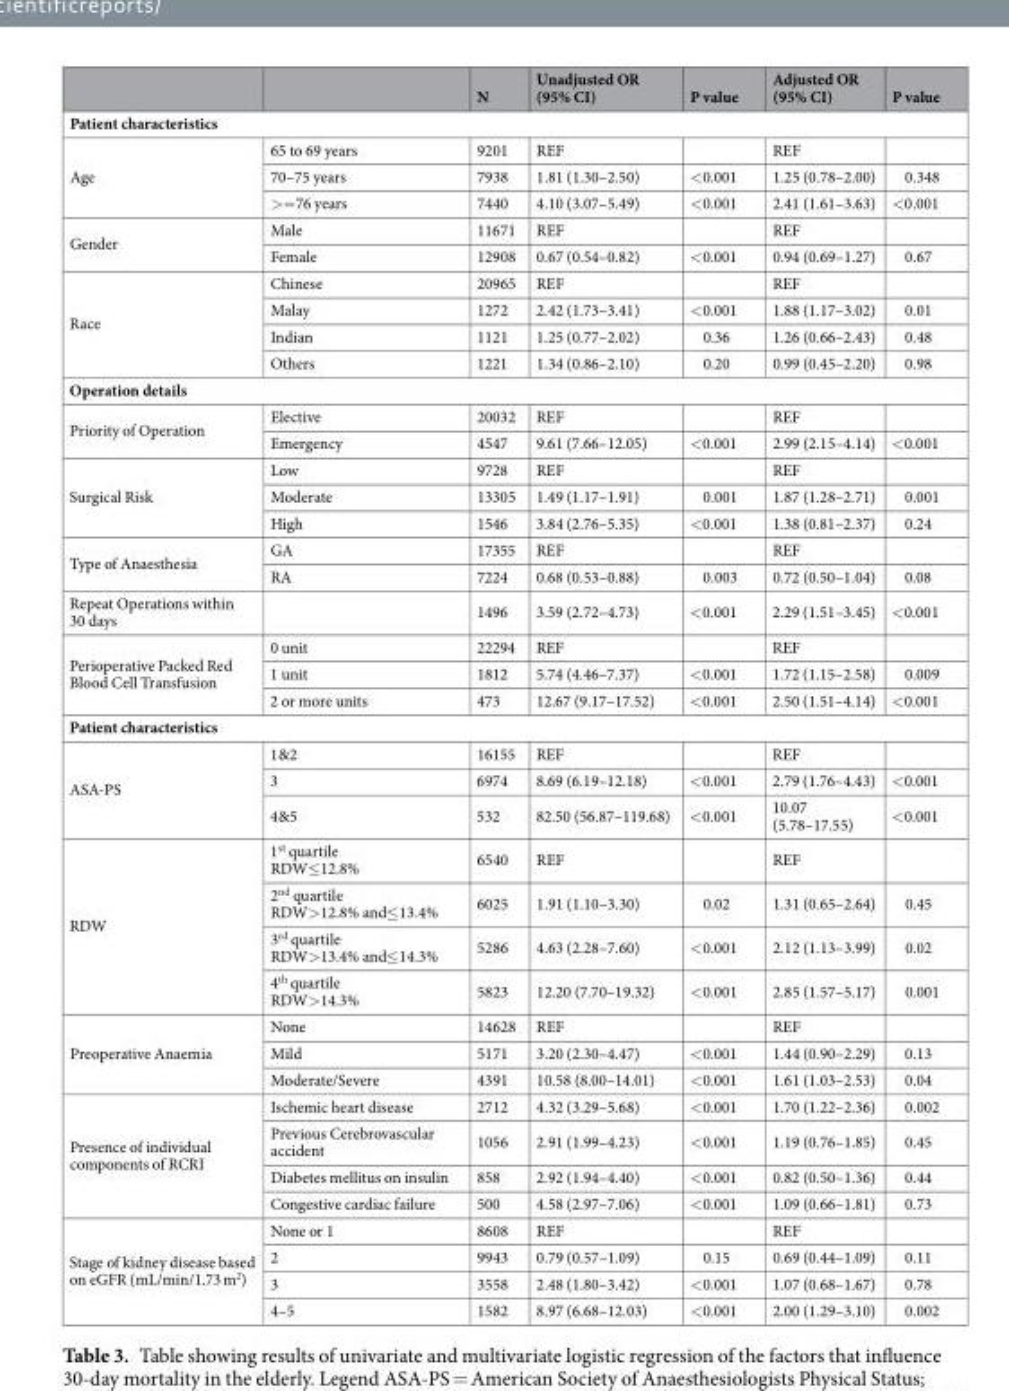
<table><thead><tr><td></td><td></td><td>N</td><td>Unadjusted OR (95% CI)</td><td>P value</td><td>Adjusted OR (95% CI)</td><td>P value</td></tr></thead><tbody><tr><td colspan="7">Patient characteristics</td></tr><tr><td rowspan="3">Age</td><td>65 to 69 years</td><td>9201</td><td>REF</td><td></td><td>REF</td><td></td></tr><tr><td>70–75 years</td><td>7938</td><td>1.81 (1.30–2.50)</td><td>&lt;0.001</td><td>1.25 (0.78–2.00)</td><td>0.348</td></tr><tr><td>&gt;=76 years</td><td>7440</td><td>4.10 (3.07–5.49)</td><td>&lt;0.001</td><td>2.41 (1.61–3.63)</td><td>&lt;0.001</td></tr><tr><td rowspan="2">Gender</td><td>Male</td><td>11671</td><td>REF</td><td></td><td>REF</td><td></td></tr><tr><td>Female</td><td>12908</td><td>0.67 (0.54–0.82)</td><td>&lt;0.001</td><td>0.94 (0.69–1.27)</td><td>0.67</td></tr><tr><td rowspan="4">Race</td><td>Chinese</td><td>20965</td><td>REF</td><td></td><td>REF</td><td></td></tr><tr><td>Malay</td><td>1272</td><td>2.42 (1.73–3.41)</td><td>&lt;0.001</td><td>1.88 (1.17–3.02)</td><td>0.01</td></tr><tr><td>Indian</td><td>1121</td><td>1.25 (0.77–2.02)</td><td>0.36</td><td>1.26 (0.66–2.43)</td><td>0.48</td></tr><tr><td>Others</td><td>1221</td><td>1.34 (0.86–2.10)</td><td>0.20</td><td>0.99 (0.45–2.20)</td><td>0.98</td></tr><tr><td colspan="7">Operation details</td></tr><tr><td rowspan="2">Priority of Operation</td><td>Elective</td><td>20032</td><td>REF</td><td></td><td>REF</td><td></td></tr><tr><td>Emergency</td><td>4547</td><td>9.61 (7.66–12.05)</td><td>&lt;0.001</td><td>2.99 (2.15–4.14)</td><td>&lt;0.001</td></tr><tr><td rowspan="3">Surgical Risk</td><td>Low</td><td>9728</td><td>REF</td><td></td><td>REF</td><td></td></tr><tr><td>Moderate</td><td>13305</td><td>1.49 (1.17–1.91)</td><td>0.001</td><td>1.87 (1.28–2.71)</td><td>0.001</td></tr><tr><td>High</td><td>1546</td><td>3.84 (2.76–5.35)</td><td>&lt;0.001</td><td>1.38 (0.81–2.37)</td><td>0.24</td></tr><tr><td rowspan="2">Type of Anaesthesia</td><td>GA</td><td>17355</td><td>REF</td><td></td><td>REF</td><td></td></tr><tr><td>RA</td><td>7224</td><td>0.68 (0.53–0.88)</td><td>0.003</td><td>0.72 (0.50–1.04)</td><td>0.08</td></tr><tr><td>Repeat Operations within 30 days</td><td></td><td>1496</td><td>3.59 (2.72–4.73)</td><td>&lt;0.001</td><td>2.29 (1.51–3.45)</td><td>&lt;0.001</td></tr><tr><td rowspan="3">Perioperative Packed Red Blood Cell Transfusion</td><td>0 unit</td><td>22294</td><td>REF</td><td></td><td>REF</td><td></td></tr><tr><td>1 unit</td><td>1812</td><td>5.74 (4.46–7.37)</td><td>&lt;0.001</td><td>1.72 (1.15–2.58)</td><td>0.009</td></tr><tr><td>2 or more units</td><td>473</td><td>12.67 (9.17–17.52)</td><td>&lt;0.001</td><td>2.50 (1.51–4.14)</td><td>&lt;0.001</td></tr><tr><td colspan="7">Patient characteristics</td></tr><tr><td rowspan="3">ASA-PS</td><td>1&amp;2</td><td>16155</td><td>REF</td><td></td><td>REF</td><td></td></tr><tr><td>3</td><td>6974</td><td>8.69 (6.19–12.18)</td><td>&lt;0.001</td><td>2.79 (1.76–4.43)</td><td>&lt;0.001</td></tr><tr><td>4&amp;5</td><td>532</td><td>82.50 (56.87–119.68)</td><td>&lt;0.001</td><td>10.07 (5.78–17.55)</td><td>&lt;0.001</td></tr><tr><td rowspan="4">RDW</td><td>1<sup>st</sup> quartile RDW≤12.8%</td><td>6540</td><td>REF</td><td></td><td>REF</td><td></td></tr><tr><td>2<sup>nd</sup> quartile RDW&gt;12.8% and≤13.4%</td><td>6025</td><td>1.91 (1.10–3.30)</td><td>0.02</td><td>1.31 (0.65–2.64)</td><td>0.45</td></tr><tr><td>3<sup>rd</sup> quartile RDW&gt;13.4% and≤14.3%</td><td>5286</td><td>4.63 (2.28–7.60)</td><td>&lt;0.001</td><td>2.12 (1.13–3.99)</td><td>0.02</td></tr><tr><td>4<sup>th</sup> quartile RDW&gt;14.3%</td><td>5823</td><td>12.20 (7.70–19.32)</td><td>&lt;0.001</td><td>2.85 (1.57–5.17)</td><td>0.001</td></tr><tr><td rowspan="3">Preoperative Anaemia</td><td>None</td><td>14628</td><td>REF</td><td></td><td>REF</td><td></td></tr><tr><td>Mild</td><td>5171</td><td>3.20 (2.30–4.47)</td><td>&lt;0.001</td><td>1.44 (0.90–2.29)</td><td>0.13</td></tr><tr><td>Moderate/Severe</td><td>4391</td><td>10.58 (8.00–14.01)</td><td>&lt;0.001</td><td>1.61 (1.03–2.53)</td><td>0.04</td></tr><tr><td rowspan="4">Presence of individual components of RCRI</td><td>Ischemic heart disease</td><td>2712</td><td>4.32 (3.29–5.68)</td><td>&lt;0.001</td><td>1.70 (1.22–2.36)</td><td>0.002</td></tr><tr><td>Previous Cerebrovascular accident</td><td>1056</td><td>2.91 (1.99–4.23)</td><td>&lt;0.001</td><td>1.19 (0.76–1.85)</td><td>0.45</td></tr><tr><td>Diabetes mellitus on insulin</td><td>858</td><td>2.92 (1.94–4.40)</td><td>&lt;0.001</td><td>0.82 (0.50–1.36)</td><td>0.44</td></tr><tr><td>Congestive cardiac failure</td><td>500</td><td>4.58 (2.97–7.06)</td><td>&lt;0.001</td><td>1.09 (0.66–1.81)</td><td>0.73</td></tr><tr><td rowspan="4">Stage of kidney disease based on eGFR (mL/min/1.73 m<sup>2</sup>)</td><td>None or 1</td><td>8608</td><td>REF</td><td></td><td>REF</td><td></td></tr><tr><td>2</td><td>9943</td><td>0.79 (0.57–1.09)</td><td>0.15</td><td>0.69 (0.44–1.09)</td><td>0.11</td></tr><tr><td>3</td><td>3558</td><td>2.48 (1.80–3.42)</td><td>&lt;0.001</td><td>1.07 (0.68–1.67)</td><td>0.78</td></tr><tr><td>4–5</td><td>1582</td><td>8.97 (6.68–12.03)</td><td>&lt;0.001</td><td>2.00 (1.29–3.10)</td><td>0.002</td></tr></tbody></table>